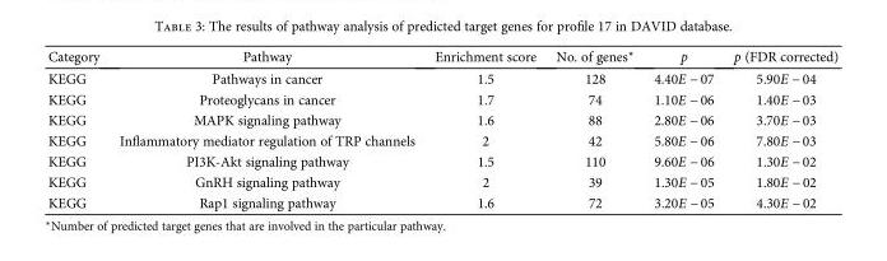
<table><thead><tr><td>Category</td><td>Pathway</td><td>Enrichment score</td><td>No. of genes∗</td><td>p</td><td>p (FDR corrected)</td></tr></thead><tbody><tr><td>KEGG</td><td>Pathways in cancer</td><td>1.5</td><td>128</td><td>4.40E − 07</td><td>5.90E − 04</td></tr><tr><td>KEGG</td><td>Proteoglycans in cancer</td><td>1.7</td><td>74</td><td>1.10E − 06</td><td>1.40E − 03</td></tr><tr><td>KEGG</td><td>MAPK signaling pathway</td><td>1.6</td><td>88</td><td>2.80E − 06</td><td>3.70E − 03</td></tr><tr><td>KEGG</td><td>Inflammatory mediator regulation of TRP channels</td><td>2</td><td>42</td><td>5.80E − 06</td><td>7.80E − 03</td></tr><tr><td>KEGG</td><td>PI3K-Akt signaling pathway</td><td>1.5</td><td>110</td><td>9.60E − 06</td><td>1.30E − 02</td></tr><tr><td>KEGG</td><td>GnRH signaling pathway</td><td>2</td><td>39</td><td>1.30E − 05</td><td>1.80E − 02</td></tr><tr><td>KEGG</td><td>Rap1 signaling pathway</td><td>1.6</td><td>72</td><td>3.20E − 05</td><td>4.30E − 02</td></tr></tbody></table>